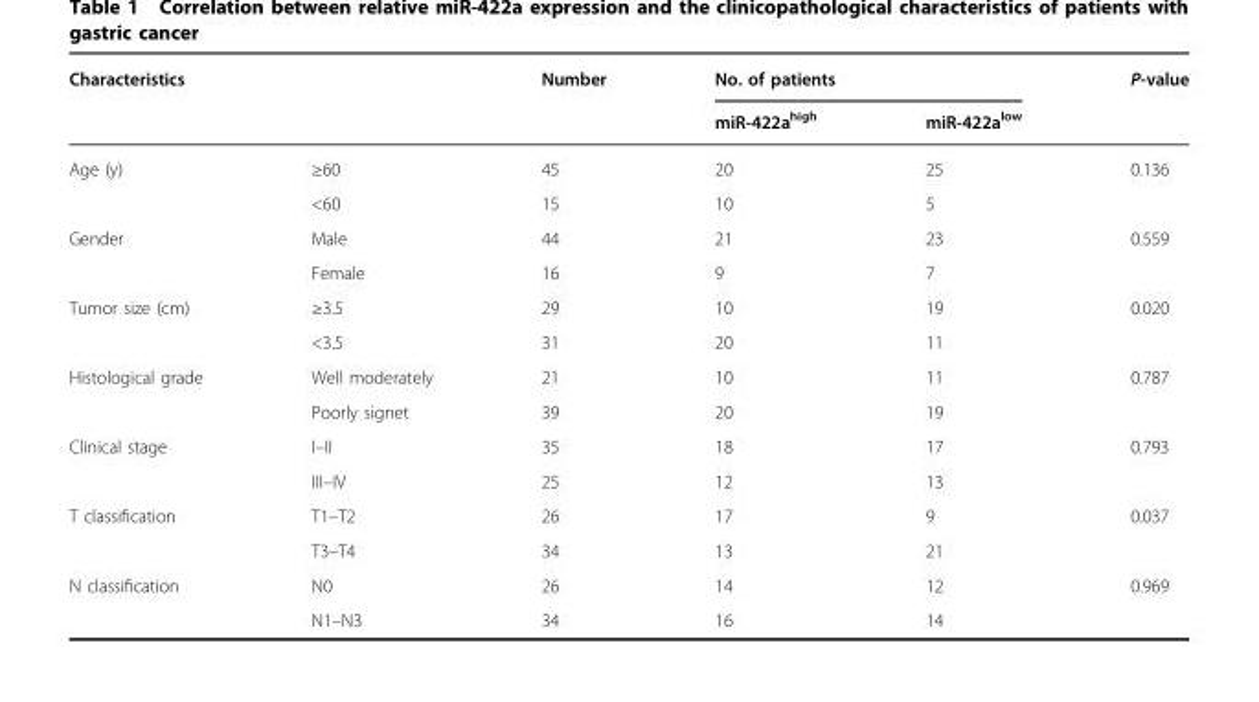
<table><thead><tr><td rowspan="2">Characteristics</td><td rowspan="2"></td><td rowspan="2">Number</td><td colspan="2">No. of patients</td><td rowspan="2">P-value</td></tr><tr><td>miR-422a<sup>high</sup></td><td>miR-422a<sup>low</sup></td></tr></thead><tbody><tr><td rowspan="2">Age (y)</td><td>≥60</td><td>45</td><td>20</td><td>25</td><td rowspan="2">0.136</td></tr><tr><td>&lt;60</td><td>15</td><td>10</td><td>5</td></tr><tr><td rowspan="2">Gender</td><td>Male</td><td>44</td><td>21</td><td>23</td><td rowspan="2">0.559</td></tr><tr><td>Female</td><td>16</td><td>9</td><td>7</td></tr><tr><td rowspan="2">Tumor size (cm)</td><td>≥3.5</td><td>29</td><td>10</td><td>19</td><td rowspan="2">0.020</td></tr><tr><td>&lt;3.5</td><td>31</td><td>20</td><td>11</td></tr><tr><td rowspan="2">Histological grade</td><td>Well moderately</td><td>21</td><td>10</td><td>11</td><td rowspan="2">0.787</td></tr><tr><td>Poorly signet</td><td>39</td><td>20</td><td>19</td></tr><tr><td rowspan="2">Clinical stage</td><td>I–II</td><td>35</td><td>18</td><td>17</td><td rowspan="2">0.793</td></tr><tr><td>III–IV</td><td>25</td><td>12</td><td>13</td></tr><tr><td rowspan="2">T classification</td><td>T1–T2</td><td>26</td><td>17</td><td>9</td><td rowspan="2">0.037</td></tr><tr><td>T3–T4</td><td>34</td><td>13</td><td>21</td></tr><tr><td rowspan="2">N classification</td><td>N0</td><td>26</td><td>14</td><td>12</td><td rowspan="2">0.969</td></tr><tr><td>N1–N3</td><td>34</td><td>16</td><td>14</td></tr></tbody></table>